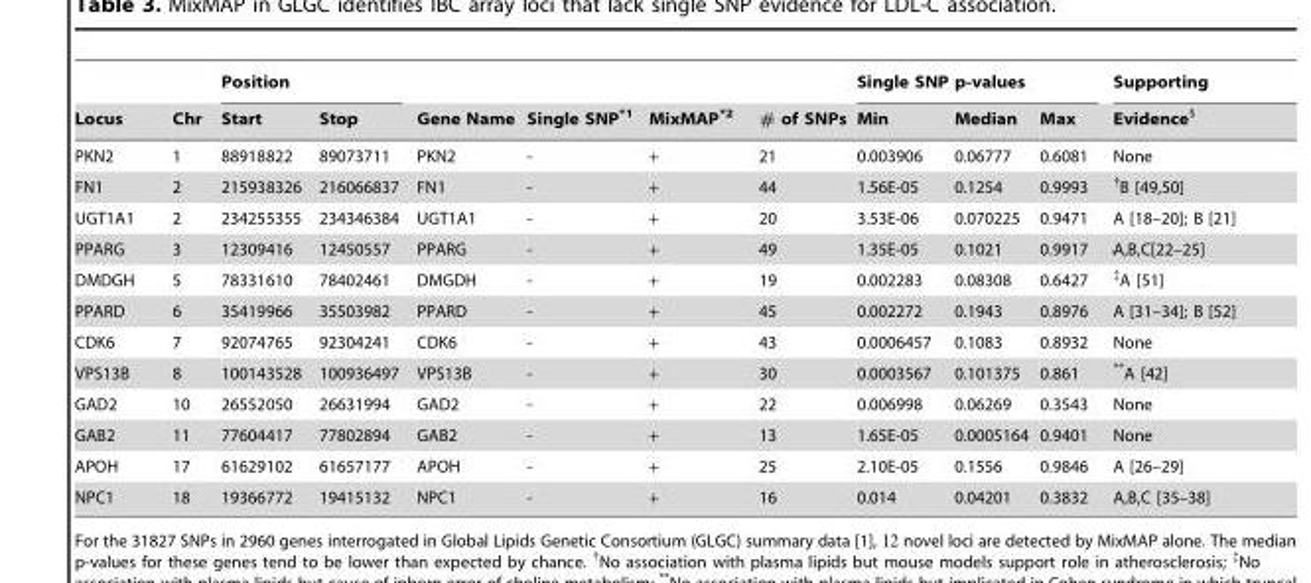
<table><thead><tr><td rowspan="2">Locus</td><td rowspan="2">Chr</td><td colspan="2">Position</td><td rowspan="2">Gene Name</td><td rowspan="2">Single SNP<sup>*1</sup></td><td rowspan="2">MixMAP<sup>*2</sup></td><td rowspan="2"># of SNPs</td><td colspan="3">Single SNP p-values</td><td rowspan="2">Supporting Evidence<sup>§</sup></td></tr><tr><td>Start</td><td>Stop</td><td>Min</td><td>Median</td><td>Max</td></tr></thead><tbody><tr><td>PKN2</td><td>1</td><td>88918822</td><td>89073711</td><td>PKN2</td><td>-</td><td>+</td><td>21</td><td>0.003906</td><td>0.06777</td><td>0.6081</td><td>None</td></tr><tr><td>FN1</td><td>2</td><td>215938326</td><td>216066837</td><td>FN1</td><td>-</td><td>+</td><td>44</td><td>1.56E-05</td><td>0.1254</td><td>0.9993</td><td>{B [49,50]</td></tr><tr><td>UGT1A1</td><td>2</td><td>234255355</td><td>234346384</td><td>UGT1A1</td><td>-</td><td>+</td><td>20</td><td>3.53E-06</td><td>0.070225</td><td>0.9471</td><td>A [18–20]; B [21]</td></tr><tr><td>PPARG</td><td>3</td><td>12309416</td><td>12450557</td><td>PPARG</td><td>-</td><td>+</td><td>49</td><td>1.35E-05</td><td>0.1021</td><td>0.9917</td><td>ˆA,B,C[22–25]</td></tr><tr><td>DMDGH</td><td>5</td><td>78331610</td><td>78402461</td><td>DMGDH</td><td>-</td><td>+</td><td>19</td><td>0.002283</td><td>0.08308</td><td>0.6427</td><td><sup>‡</sup>A [51]</td></tr><tr><td>PPARD</td><td>6</td><td>35419966</td><td>35503982</td><td>PPARD</td><td>-</td><td>+</td><td>45</td><td>0.002272</td><td>0.1943</td><td>0.8976</td><td>A [31–34]; B [52]</td></tr><tr><td>CDK6</td><td>7</td><td>92074765</td><td>92304241</td><td>CDK6</td><td>-</td><td>+</td><td>43</td><td>0.0006457</td><td>0.1083</td><td>0.8932</td><td>None</td></tr><tr><td>VPS13B</td><td>8</td><td>100143528</td><td>100936497</td><td>VPS13B</td><td>-</td><td>+</td><td>30</td><td>0.0003567</td><td>0.101375</td><td>0.861</td><td>**A [42]</td></tr><tr><td>GAD2</td><td>10</td><td>26552050</td><td>26631994</td><td>GAD2</td><td>-</td><td>+</td><td>22</td><td>0.006998</td><td>0.06269</td><td>0.3543</td><td>None</td></tr><tr><td>GAB2</td><td>11</td><td>77604417</td><td>77802894</td><td>GAB2</td><td>-</td><td>+</td><td>13</td><td>1.65E-05</td><td>0.0005164</td><td>0.9401</td><td>None</td></tr><tr><td>APOH</td><td>17</td><td>61629102</td><td>61657177</td><td>APOH</td><td>-</td><td>+</td><td>25</td><td>2.10E-05</td><td>0.1556</td><td>0.9846</td><td>A [26–29]</td></tr><tr><td>NPC1</td><td>18</td><td>19366772</td><td>19415132</td><td>NPC1</td><td>-</td><td>+</td><td>16</td><td>0.014</td><td>0.04201</td><td>0.3832</td><td>A,B,C [35–38]</td></tr></tbody></table>